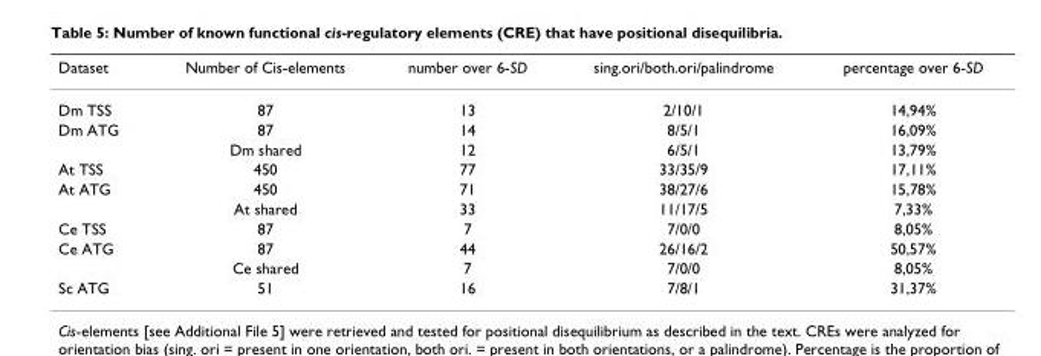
<table><thead><tr><td>Dataset</td><td>Number of Cis-elements</td><td>number over 6-SD</td><td>sing.ori/both.ori/palindrome</td><td>percentage over 6-SD</td></tr></thead><tbody><tr><td>Dm TSS</td><td>87</td><td>13</td><td>2/10/1</td><td>14,94%</td></tr><tr><td rowspan="2">Dm ATG</td><td>87</td><td>14</td><td>8/5/1</td><td>16,09%</td></tr><tr><td>Dm shared</td><td>12</td><td>6/5/1</td><td>13,79%</td></tr><tr><td>At TSS</td><td>450</td><td>77</td><td>33/35/9</td><td>17,11%</td></tr><tr><td rowspan="2">At ATG</td><td>450</td><td>71</td><td>38/27/6</td><td>15,78%</td></tr><tr><td>At shared</td><td>33</td><td>11/17/5</td><td>7,33%</td></tr><tr><td>Ce TSS</td><td>87</td><td>7</td><td>7/0/0</td><td>8,05%</td></tr><tr><td rowspan="2">Ce ATG</td><td>87</td><td>44</td><td>26/16/2</td><td>50,57%</td></tr><tr><td>Ce shared</td><td>7</td><td>7/0/0</td><td>8,05%</td></tr><tr><td>Sc ATG</td><td>51</td><td>16</td><td>7/8/1</td><td>31,37%</td></tr></tbody></table>